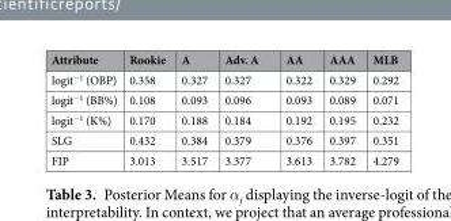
<table><thead><tr><td>Attribute</td><td>Rookie</td><td>A</td><td>Adv. A</td><td>AA</td><td>AAA</td><td>MLB</td></tr></thead><tbody><tr><td>logit<sup>−1</sup> (OBP)</td><td>0.358</td><td>0.327</td><td>0.327</td><td>0.322</td><td>0.329</td><td>0.292</td></tr><tr><td>logit<sup>−1</sup> (BB%)</td><td>0.108</td><td>0.093</td><td>0.096</td><td>0.093</td><td>0.089</td><td>0.071</td></tr><tr><td>logit<sup>−1</sup> (K%)</td><td>0.170</td><td>0.188</td><td>0.184</td><td>0.192</td><td>0.195</td><td>0.232</td></tr><tr><td>SLG</td><td>0.432</td><td>0.384</td><td>0.379</td><td>0.376</td><td>0.397</td><td>0.351</td></tr><tr><td>FIP</td><td>3.013</td><td>3.517</td><td>3.377</td><td>3.613</td><td>3.782</td><td>4.279</td></tr></tbody></table>